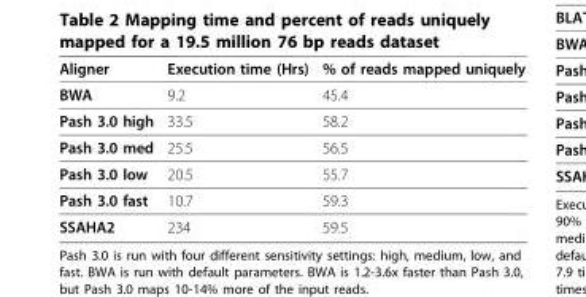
<table><thead><tr><td>Aligner</td><td>Execution time (Hrs)</td><td>% of reads mapped uniquely</td></tr></thead><tbody><tr><td>BWA</td><td>9.2</td><td>45.4</td></tr><tr><td>Pash 3.0 high</td><td>33.5</td><td>58.2</td></tr><tr><td>Pash 3.0 med</td><td>25.5</td><td>56.5</td></tr><tr><td>Pash 3.0 low</td><td>20.5</td><td>55.7</td></tr><tr><td>Pash 3.0 fast</td><td>10.7</td><td>59.3</td></tr><tr><td>SSAHA2</td><td>234</td><td>59.5</td></tr></tbody></table>